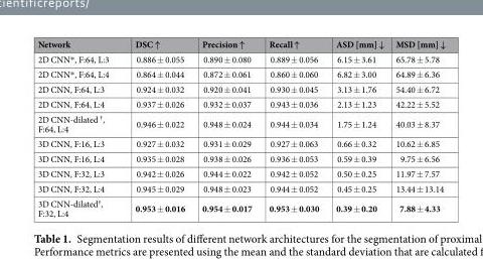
<table><thead><tr><td>Network</td><td>DSC ↑</td><td>Precision ↑</td><td>Recall ↑</td><td>ASD [mm] ↓</td><td>MSD [mm] ↓</td></tr></thead><tbody><tr><td>2D CNN*, F:64, L:3</td><td>0.886 ± 0.055</td><td>0.890 ± 0.080</td><td>0.889 ± 0.056</td><td>6.15 ± 3.61</td><td>65.78 ± 5.78</td></tr><tr><td>2D CNN*, F:64, L:4</td><td>0.864 ± 0.044</td><td>0.872 ± 0.061</td><td>0.860 ± 0.060</td><td>6.82 ± 3.00</td><td>64.89 ± 6.36</td></tr><tr><td>2D CNN, F:64, L:3</td><td>0.924 ± 0.032</td><td>0.920 ± 0.041</td><td>0.930 ± 0.045</td><td>3.13 ± 1.76</td><td>54.40 ± 6.72</td></tr><tr><td>2D CNN, F:64, L:4</td><td>0.937 ± 0.026</td><td>0.932 ± 0.037</td><td>0.943 ± 0.036</td><td>2.13 ± 1.23</td><td>42.22 ± 5.52</td></tr><tr><td>2D CNN-dilated <sup>†</sup>, F:64, L:4</td><td>0.946 ± 0.022</td><td>0.948 ± 0.024</td><td>0.944 ± 0.034</td><td>1.75 ± 1.24</td><td>40.03 ± 8.37</td></tr><tr><td>3D CNN, F:16, L:3</td><td>0.927 ± 0.032</td><td>0.931 ± 0.029</td><td>0.927 ± 0.063</td><td>0.66 ± 0.32</td><td>10.62 ± 6.85</td></tr><tr><td>3D CNN, F:16, L:4</td><td>0.935 ± 0.028</td><td>0.938 ± 0.026</td><td>0.936 ± 0.053</td><td>0.59 ± 0.39</td><td>9.75 ± 6.56</td></tr><tr><td>3D CNN, F:32, L:3</td><td>0.942 ± 0.026</td><td>0.944 ± 0.022</td><td>0.942 ± 0.052</td><td>0.50 ± 0.25</td><td>11.97 ± 7.57</td></tr><tr><td>3D CNN, F:32, L:4</td><td>0.945 ± 0.029</td><td>0.948 ± 0.023</td><td>0.944 ± 0.052</td><td>0.45 ± 0.25</td><td>13.44 ± 13.14</td></tr><tr><td>3D CNN-dilated<sup>†</sup>, F:32, L:4</td><td>0.953 ± 0.016</td><td>0.954 ± 0.017</td><td>0.953 ± 0.030</td><td>0.39 ± 0.20</td><td>7.88 ± 4.33</td></tr></tbody></table>